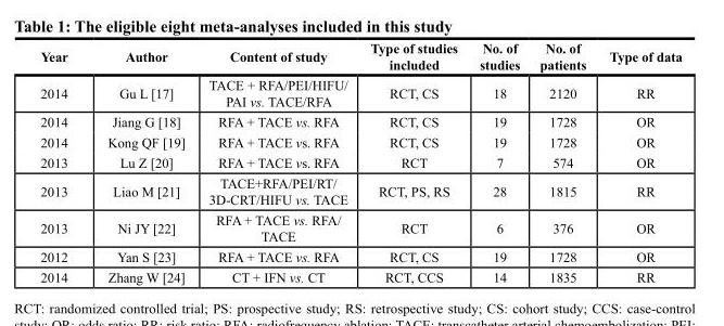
<table><thead><tr><td>Year</td><td>Author</td><td>Content of study</td><td>Type of studies included</td><td>No. of studies</td><td>No. of patients</td><td>Type of data</td></tr></thead><tbody><tr><td>2014</td><td>Gu L [17]</td><td>TACE + RFA/PEI/HIFU/ PAI vs. TACE/RFA</td><td>RCT, CS</td><td>18</td><td>2120</td><td>RR</td></tr><tr><td>2014</td><td>Jiang G [18]</td><td>RFA + TACE vs. RFA</td><td>RCT, CS</td><td>19</td><td>1728</td><td>OR</td></tr><tr><td>2014</td><td>Kong QF [19]</td><td>RFA + TACE vs. RFA</td><td>RCT, CS</td><td>19</td><td>1728</td><td>OR</td></tr><tr><td>2013</td><td>Lu Z [20]</td><td>RFA + TACE vs. RFA</td><td>RCT</td><td>7</td><td>574</td><td>OR</td></tr><tr><td>2013</td><td>Liao M [21]</td><td>TACE+RFA/PEI/RT/ 3D-CRT/HIFU vs. TACE</td><td>RCT, PS, RS</td><td>28</td><td>1815</td><td>RR</td></tr><tr><td>2013</td><td>Ni JY [22]</td><td>RFA + TACE vs. RFA/ TACE</td><td>RCT</td><td>6</td><td>376</td><td>OR</td></tr><tr><td>2012</td><td>Yan S [23]</td><td>RFA + TACE vs. RFA</td><td>RCT, CS</td><td>19</td><td>1728</td><td>OR</td></tr><tr><td>2014</td><td>Zhang W [24]</td><td>CT + IFN vs. CT</td><td>RCT, CCS</td><td>14</td><td>1835</td><td>RR</td></tr></tbody></table>